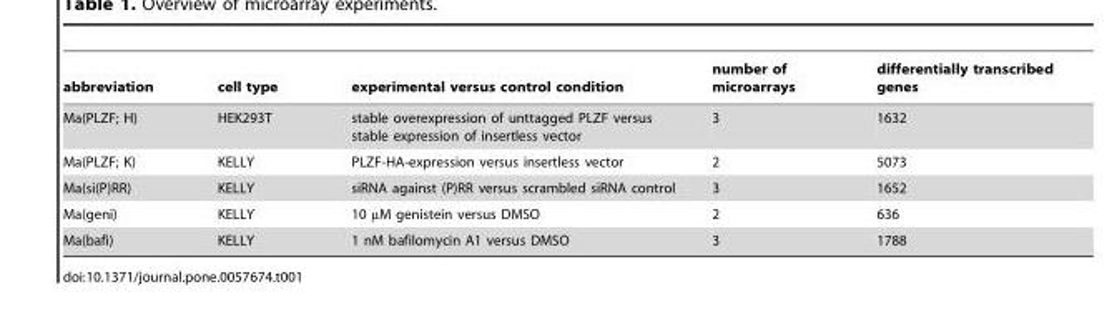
<table><thead><tr><td>abbreviation</td><td>cell type</td><td>experimental versus control condition</td><td>number of microarrays</td><td>differentially transcribed genes</td></tr></thead><tbody><tr><td>Ma(PLZF; H)</td><td>HEK293T</td><td>stable overexpression of unttagged PLZF versus stable expression of insertless vector</td><td>3</td><td>1632</td></tr><tr><td>Ma(PLZF; K)</td><td>KELLY</td><td>PLZF-HA-expression versus insertless vector</td><td>2</td><td>5073</td></tr><tr><td>Ma(si(P)RR)</td><td>KELLY</td><td>siRNA against (P)RR versus scrambled siRNA control</td><td>3</td><td>1652</td></tr><tr><td>Ma(geni)</td><td>KELLY</td><td>10 µM genistein versus DMSO</td><td>2</td><td>636</td></tr><tr><td>Ma(bafi)</td><td>KELLY</td><td>1 nM bafilomycin A1 versus DMSO</td><td>3</td><td>1788</td></tr></tbody></table>